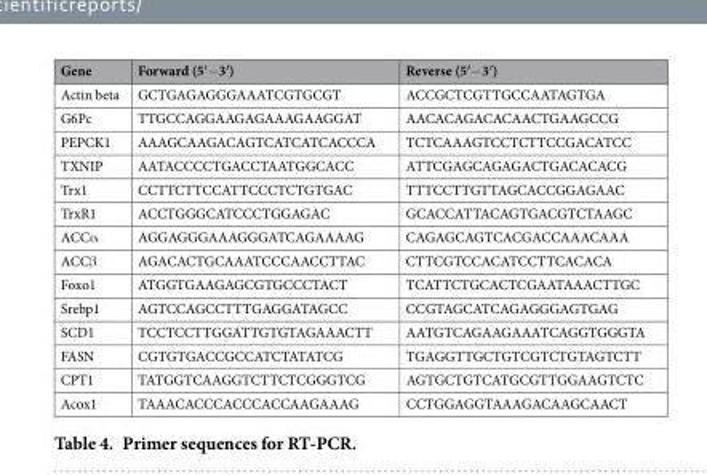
<table><thead><tr><td>Gene</td><td>Forward (5′ − 3′ )</td><td>Reverse (5′ − 3′ )</td></tr></thead><tbody><tr><td>Actin beta</td><td>GCTGAGAGGGAAATCGTGCGT</td><td>ACCGCTCGTTGCCAATAGTGA</td></tr><tr><td>G6Pc</td><td>TTGCCAGGAAGAGAAAGAAGGAT</td><td>AACACAGACACAACTGAAGCCG</td></tr><tr><td>PEPCK1</td><td>AAAGCAAGACAGTCATCATCACCCA</td><td>TCTCAAAGTCCTCTTCCGACATCC</td></tr><tr><td>TXNIP</td><td>AATACCCCTGACCTAATGGCACC</td><td>ATTCGAGCAGAGACTGACACACG</td></tr><tr><td>Trx1</td><td>CCTTCTTCCATTCCCTCTGTGAC</td><td>TTTCCTTGTTAGCACCGGAGAAC</td></tr><tr><td>TrxR1</td><td>ACCTGGGCATCCCTGGAGAC</td><td>GCACCATTACAGTGACGTCTAAGC</td></tr><tr><td>ACCα</td><td>AGGAGGGAAAGGGATCAGAAAAG</td><td>CAGAGCAGTCACGACCAAACAAA</td></tr><tr><td>ACCβ</td><td>AGACACTGCAAATCCCAACCTTAC</td><td>CTTCGTCCACATCCTTCACACA</td></tr><tr><td>Foxo1</td><td>ATGGTGAAGAGCGTGCCCTACT</td><td>TCATTCTGCACTCGAATAAACTTGC</td></tr><tr><td>Srebp1</td><td>AGTCCAGCCTTTGAGGATAGCC</td><td>CCGTAGCATCAGAGGGAGTGAG</td></tr><tr><td>SCD1</td><td>TCCTCCTTGGATTGTGTAGAAACTT</td><td>AATGTCAGAAGAAATCAGGTGGGTA</td></tr><tr><td>FASN</td><td>CGTGTGACCGCCATCTATATCG</td><td>TGAGGTTGCTGTCGTCTGTAGTCTT</td></tr><tr><td>CPT1</td><td>TATGGTCAAGGTCTTCTCGGGTCG</td><td>AGTGCTGTCATGCGTTGGAAGTCTC</td></tr><tr><td>Acox1</td><td>TAAACACCCACCCACCAAGAAAG</td><td>CCTGGAGGTAAAGACAAGCAACT</td></tr></tbody></table>